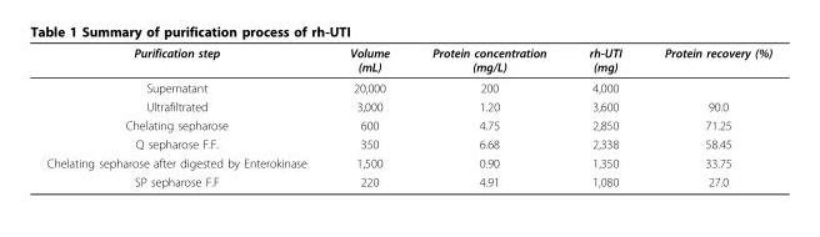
<table><thead><tr><td>Purification step</td><td>Volume (mL)</td><td>Protein concentration (mg/L)</td><td>rh-UTI (mg)</td><td>Protein recovery (%)</td></tr></thead><tbody><tr><td>Supernatant</td><td>20,000</td><td>200</td><td>4,000</td><td></td></tr><tr><td>Ultrafiltrated</td><td>3,000</td><td>1.20</td><td>3,600</td><td>90.0</td></tr><tr><td>Chelating sepharose</td><td>600</td><td>4.75</td><td>2,850</td><td>71.25</td></tr><tr><td>Q sepharose F.F.</td><td>350</td><td>6.68</td><td>2,338</td><td>58.45</td></tr><tr><td>Chelating sepharose after digested by Enterokinase</td><td>1,500</td><td>0.90</td><td>1,350</td><td>33.75</td></tr><tr><td>SP sepharose F.F</td><td>220</td><td>4.91</td><td>1,080</td><td>27.0</td></tr></tbody></table>